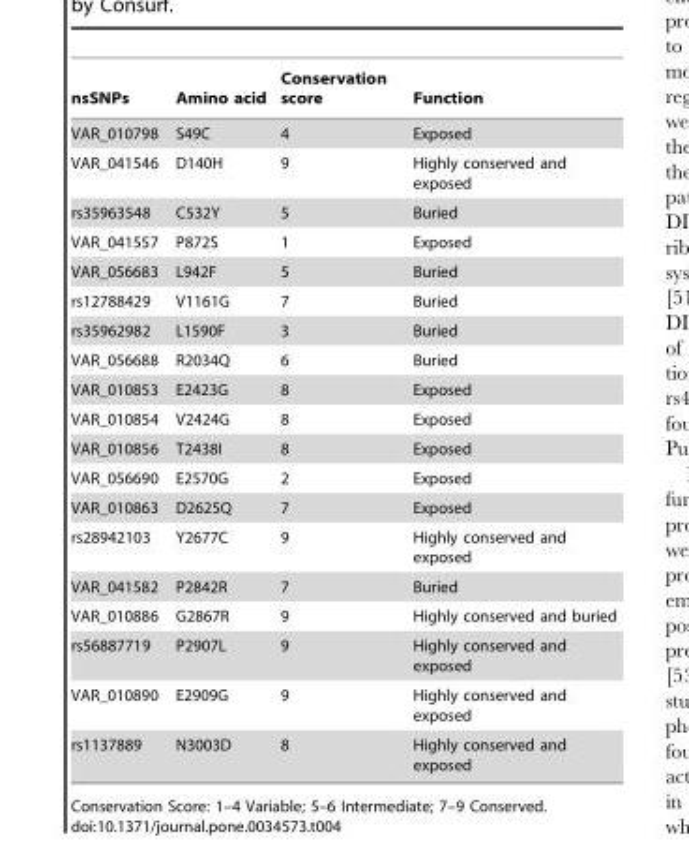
<table><thead><tr><td>nsSNPs</td><td>Amino acid</td><td>Conservation score</td><td>Function</td></tr></thead><tbody><tr><td>VAR_010798</td><td>S49C</td><td>4</td><td>Exposed</td></tr><tr><td>VAR_041546</td><td>D140H</td><td>9</td><td>Highly conserved and exposed</td></tr><tr><td>rs35963548</td><td>C532Y</td><td>5</td><td>Buried</td></tr><tr><td>VAR_041557</td><td>P872S</td><td>1</td><td>Exposed</td></tr><tr><td>VAR_056683</td><td>L942F</td><td>5</td><td>Buried</td></tr><tr><td>rs12788429</td><td>V1161G</td><td>7</td><td>Buried</td></tr><tr><td>rs35962982</td><td>L1590F</td><td>3</td><td>Buried</td></tr><tr><td>VAR_056688</td><td>R2034Q</td><td>6</td><td>Buried</td></tr><tr><td>VAR_010853</td><td>E2423G</td><td>8</td><td>Exposed</td></tr><tr><td>VAR_010854</td><td>V2424G</td><td>8</td><td>Exposed</td></tr><tr><td>VAR_010856</td><td>T2438I</td><td>8</td><td>Exposed</td></tr><tr><td>VAR_056690</td><td>E2570G</td><td>2</td><td>Exposed</td></tr><tr><td>VAR_010863</td><td>D2625Q</td><td>7</td><td>Exposed</td></tr><tr><td>rs28942103</td><td>Y2677C</td><td>9</td><td>Highly conserved and exposed</td></tr><tr><td>VAR_041582</td><td>P2842R</td><td>7</td><td>Buried</td></tr><tr><td>VAR_010886</td><td>G2867R</td><td>9</td><td>Highly conserved and buried</td></tr><tr><td>rs56887719</td><td>P2907L</td><td>9</td><td>Highly conserved and exposed</td></tr><tr><td>VAR_010890</td><td>E2909G</td><td>9</td><td>Highly conserved and exposed</td></tr><tr><td>rs1137889</td><td>N3003D</td><td>8</td><td>Highly conserved and exposed</td></tr></tbody></table>